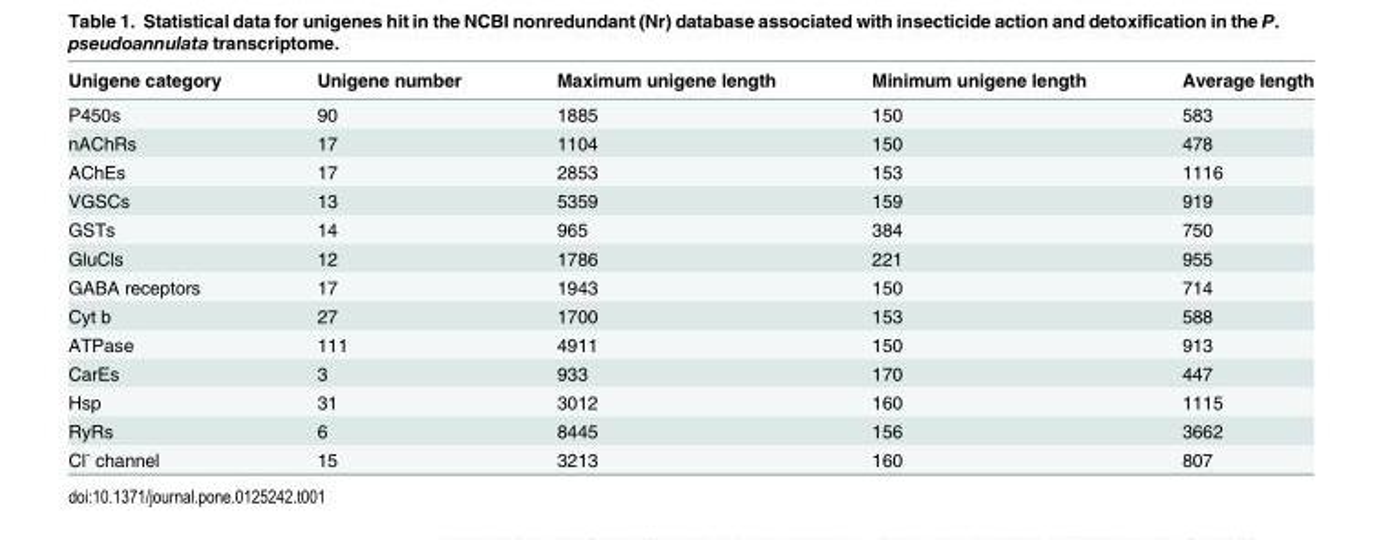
<table><thead><tr><td>Unigene category</td><td>Unigene number</td><td>Maximum unigene length</td><td>Minimum unigene length</td><td>Average length</td></tr></thead><tbody><tr><td>P450s</td><td>90</td><td>1885</td><td>150</td><td>583</td></tr><tr><td>nAChRs</td><td>17</td><td>1104</td><td>150</td><td>478</td></tr><tr><td>AChEs</td><td>17</td><td>2853</td><td>153</td><td>1116</td></tr><tr><td>VGSCs</td><td>13</td><td>5359</td><td>159</td><td>919</td></tr><tr><td>GSTs</td><td>14</td><td>965</td><td>384</td><td>750</td></tr><tr><td>GluCls</td><td>12</td><td>1786</td><td>221</td><td>955</td></tr><tr><td>GABA receptors</td><td>17</td><td>1943</td><td>150</td><td>714</td></tr><tr><td>Cyt b</td><td>27</td><td>1700</td><td>153</td><td>588</td></tr><tr><td>ATPase</td><td>111</td><td>4911</td><td>150</td><td>913</td></tr><tr><td>CarEs</td><td>3</td><td>933</td><td>170</td><td>447</td></tr><tr><td>Hsp</td><td>31</td><td>3012</td><td>160</td><td>1115</td></tr><tr><td>RyRs</td><td>6</td><td>8445</td><td>156</td><td>3662</td></tr><tr><td>Cl<sup>-</sup> channel</td><td>15</td><td>3213</td><td>160</td><td>807</td></tr></tbody></table>